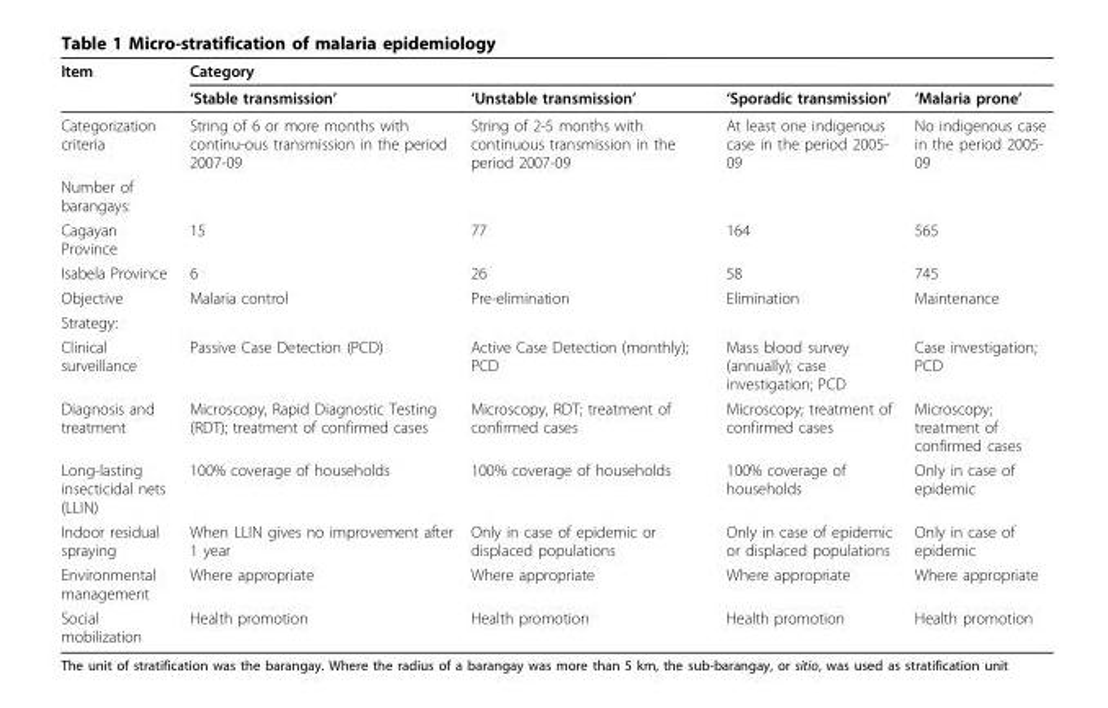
<table><thead><tr><td rowspan="2">Item</td><td colspan="4">Category</td></tr><tr><td>‘Stable transmission’</td><td>‘Unstable transmission’</td><td>‘Sporadic transmission’</td><td>‘Malaria prone’</td></tr></thead><tbody><tr><td>Categorization criteria</td><td>String of 6 or more months with continu-ous transmission in the period 2007-09</td><td>String of 2-5 months with continuous transmission in the period 2007-09</td><td>At least one indigenous case in the period 2005- 09</td><td>No indigenous case in the period 2005- 09</td></tr><tr><td colspan="5">Number of barangays:</td></tr><tr><td>Cagayan Province</td><td>15</td><td>77</td><td>164</td><td>565</td></tr><tr><td>Isabela Province</td><td>6</td><td>26</td><td>58</td><td>745</td></tr><tr><td>Objective</td><td>Malaria control</td><td>Pre-elimination</td><td>Elimination</td><td>Maintenance</td></tr><tr><td colspan="5">Strategy:</td></tr><tr><td>Clinical surveillance</td><td>Passive Case Detection (PCD)</td><td>Active Case Detection (monthly); PCD</td><td>Mass blood survey (annually); case investigation; PCD</td><td>Case investigation; PCD</td></tr><tr><td>Diagnosis and treatment</td><td>Microscopy, Rapid Diagnostic Testing (RDT); treatment of confirmed cases</td><td>Microscopy, RDT; treatment of confirmed cases</td><td>Microscopy; treatment of confirmed cases</td><td>Microscopy; treatment of confirmed cases</td></tr><tr><td>Long-lasting insecticidal nets (LLIN)</td><td>100% coverage of households</td><td>100% coverage of households</td><td>100% coverage of households</td><td>Only in case of epidemic</td></tr><tr><td>Indoor residual spraying</td><td>When LLIN gives no improvement after 1 year</td><td>Only in case of epidemic or displaced populations</td><td>Only in case of epidemic or displaced populations</td><td>Only in case of epidemic</td></tr><tr><td>Environmental management</td><td>Where appropriate</td><td>Where appropriate</td><td>Where appropriate</td><td>Where appropriate</td></tr><tr><td>Social mobilization</td><td>Health promotion</td><td>Health promotion</td><td>Health promotion</td><td>Health promotion</td></tr></tbody></table>